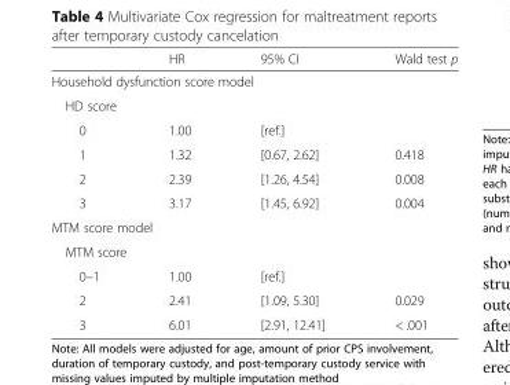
<table><thead><tr><td></td><td>HR</td><td>95% CI</td><td>Wald test p</td></tr></thead><tbody><tr><td colspan="4">Household dysfunction score model</td></tr><tr><td colspan="4">HD score</td></tr><tr><td>0</td><td>1.00</td><td>[ref.]</td><td></td></tr><tr><td>1</td><td>1.32</td><td>[0.67, 2.62]</td><td>0.418</td></tr><tr><td>2</td><td>2.39</td><td>[1.26, 4.54]</td><td>0.008</td></tr><tr><td>3</td><td>3.17</td><td>[1.45, 6.92]</td><td>0.004</td></tr><tr><td colspan="4">MTM score model</td></tr><tr><td colspan="4">MTM score</td></tr><tr><td>0–1</td><td>1.00</td><td>[ref.]</td><td></td></tr><tr><td>2</td><td>2.41</td><td>[1.09, 5.30]</td><td>0.029</td></tr><tr><td>3</td><td>6.01</td><td>[2.91, 12.41]</td><td>&lt; .001</td></tr></tbody></table>